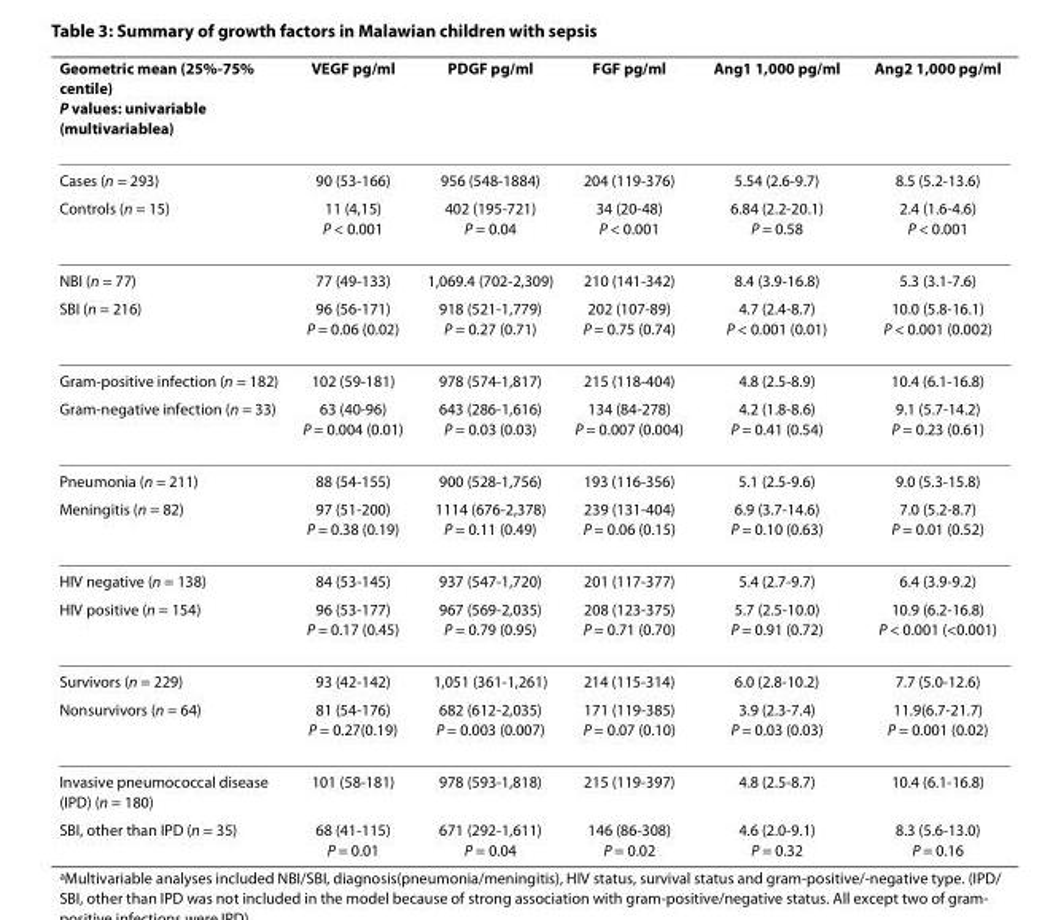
<table><thead><tr><td>Geometric mean (25%-75% centile) P values: univariable (multivariable<sup>a</sup>)</td><td>VEGF pg/ml</td><td>PDGF pg/ml</td><td>FGF pg/ml</td><td>Ang1 1,000 pg/ml</td><td>Ang2 1,000 pg/ml</td></tr></thead><tbody><tr><td>Cases (n = 293)</td><td>90 (53-166)</td><td>956 (548-1884)</td><td>204 (119-376)</td><td>5.54 (2.6-9.7)</td><td>8.5 (5.2-13.6)</td></tr><tr><td>Controls (n = 15)</td><td>11 (4,15) P &lt; 0.001</td><td>402 (195-721) P = 0.04</td><td>34 (20-48) P &lt; 0.001</td><td>6.84 (2.2-20.1) P = 0.58</td><td>2.4 (1.6-4.6) P &lt; 0.001</td></tr><tr><td>NBI (n = 77)</td><td>77 (49-133)</td><td>1,069.4 (702-2,309)</td><td>210 (141-342)</td><td>8.4 (3.9-16.8)</td><td>5.3 (3.1-7.6)</td></tr><tr><td>SBI (n = 216)</td><td>96 (56-171) P = 0.06 (0.02)</td><td>918 (521-1,779) P = 0.27 (0.71)</td><td>202 (107-89) P = 0.75 (0.74)</td><td>4.7 (2.4-8.7) P &lt; 0.001 (0.01)</td><td>10.0 (5.8-16.1) P &lt; 0.001 (0.002)</td></tr><tr><td>Gram-positive infection (n = 182)</td><td>102 (59-181)</td><td>978 (574-1,817)</td><td>215 (118-404)</td><td>4.8 (2.5-8.9)</td><td>10.4 (6.1-16.8)</td></tr><tr><td>Gram-negative infection (n = 33)</td><td>63 (40-96) P = 0.004 (0.01)</td><td>643 (286-1,616) P = 0.03 (0.03)</td><td>134 (84-278) P = 0.007 (0.004)</td><td>4.2 (1.8-8.6) P = 0.41 (0.54)</td><td>9.1 (5.7-14.2) P = 0.23 (0.61)</td></tr><tr><td>Pneumonia (n = 211)</td><td>88 (54-155)</td><td>900 (528-1,756)</td><td>193 (116-356)</td><td>5.1 (2.5-9.6)</td><td>9.0 (5.3-15.8)</td></tr><tr><td>Meningitis (n = 82)</td><td>97 (51-200) P = 0.38 (0.19)</td><td>1114 (676-2,378) P = 0.11 (0.49)</td><td>239 (131-404) P = 0.06 (0.15)</td><td>6.9 (3.7-14.6) P = 0.10 (0.63)</td><td>7.0 (5.2-8.7) P = 0.01 (0.52)</td></tr><tr><td>HIV negative (n = 138)</td><td>84 (53-145)</td><td>937 (547-1,720)</td><td>201 (117-377)</td><td>5.4 (2.7-9.7)</td><td>6.4 (3.9-9.2)</td></tr><tr><td>HIV positive (n = 154)</td><td>96 (53-177) P = 0.17 (0.45)</td><td>967 (569-2,035) P = 0.79 (0.95)</td><td>208 (123-375) P = 0.71 (0.70)</td><td>5.7 (2.5-10.0) P = 0.91 (0.72)</td><td>10.9 (6.2-16.8) P &lt; 0.001 (&lt;0.001)</td></tr><tr><td>Survivors (n = 229)</td><td>93 (42-142)</td><td>1,051 (361-1,261)</td><td>214 (115-314)</td><td>6.0 (2.8-10.2)</td><td>7.7 (5.0-12.6)</td></tr><tr><td>Nonsurvivors (n = 64)</td><td>81 (54-176) P = 0.27(0.19)</td><td>682 (612-2,035) P = 0.003 (0.007)</td><td>171 (119-385) P = 0.07 (0.10)</td><td>3.9 (2.3-7.4) P = 0.03 (0.03)</td><td>11.9(6.7-21.7) P = 0.001 (0.02)</td></tr><tr><td>Invasive pneumococcal disease (IPD) (n = 180)</td><td>101 (58-181)</td><td>978 (593-1,818)</td><td>215 (119-397)</td><td>4.8 (2.5-8.7)</td><td>10.4 (6.1-16.8)</td></tr><tr><td>SBI, other than IPD (n = 35)</td><td>68 (41-115) P = 0.01</td><td>671 (292-1,611) P = 0.04</td><td>146 (86-308) P = 0.02</td><td>4.6 (2.0-9.1) P = 0.32</td><td>8.3 (5.6-13.0) P = 0.16</td></tr></tbody></table>